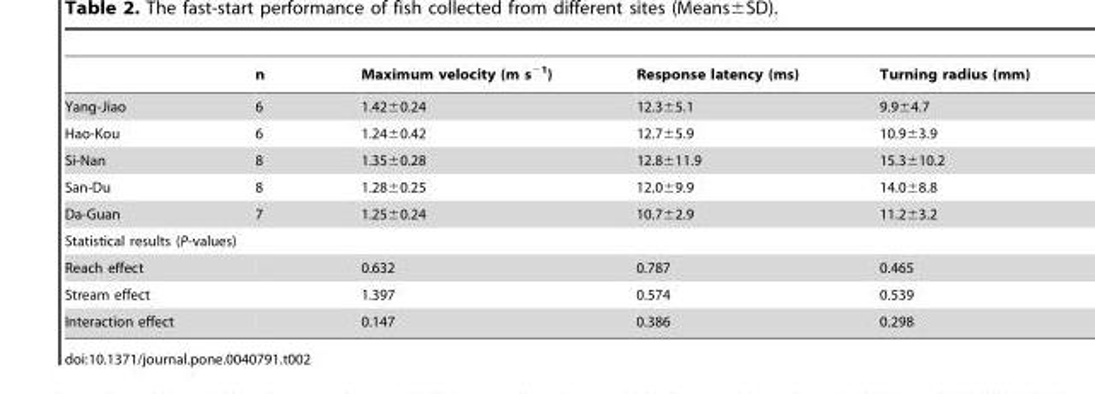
<table><thead><tr><td></td><td>n</td><td>Maximum velocity (m s<sup>−1</sup>)</td><td>Response latency (ms)</td><td>Turning radius (mm)</td></tr></thead><tbody><tr><td>Yang-Jiao</td><td>6</td><td>1.42±0.24</td><td>12.3±5.1</td><td>9.9±4.7</td></tr><tr><td>Hao-Kou</td><td>6</td><td>1.24±0.42</td><td>12.7±5.9</td><td>10.9±3.9</td></tr><tr><td>Si-Nan</td><td>8</td><td>1.35±0.28</td><td>12.8±11.9</td><td>15.3±10.2</td></tr><tr><td>San-Du</td><td>8</td><td>1.28±0.25</td><td>12.0±9.9</td><td>14.0±8.8</td></tr><tr><td>Da-Guan</td><td>7</td><td>1.25±0.24</td><td>10.7±2.9</td><td>11.2±3.2</td></tr><tr><td colspan="5">Statistical results (P-values)</td></tr><tr><td>Reach effect</td><td></td><td>0.632</td><td>0.787</td><td>0.465</td></tr><tr><td>Stream effect</td><td></td><td>1.397</td><td>0.574</td><td>0.539</td></tr><tr><td>Interaction effect</td><td></td><td>0.147</td><td>0.386</td><td>0.298</td></tr></tbody></table>